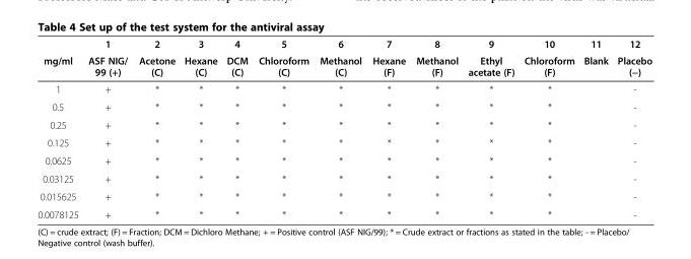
<table><thead><tr><td rowspan="2">mg/ml</td><td rowspan="2">1 ASF NIG/ 99 (+)</td><td rowspan="2">2 Acetone (C)</td><td rowspan="2">3 Hexane (C)</td><td rowspan="2">4 DCM (C)</td><td rowspan="2">5 Chloroform (C)</td><td rowspan="2">6 Methanol (C)</td><td rowspan="2">7 Hexane (F)</td><td rowspan="2">8 Methanol (F)</td><td rowspan="2">9 Ethyl acetate (F)</td><td rowspan="2">10 Chloroform (F)</td><td rowspan="2">11 Blank</td><td rowspan="2">12 Placebo (−)</td></tr><tr></tr></thead><tbody><tr><td>1</td><td>+</td><td>*</td><td>*</td><td>*</td><td>*</td><td>*</td><td>*</td><td>*</td><td>*</td><td>*</td><td></td><td>-</td></tr><tr><td>0.5</td><td>+</td><td>*</td><td>*</td><td>*</td><td>*</td><td>*</td><td>*</td><td>*</td><td>*</td><td>*</td><td></td><td>-</td></tr><tr><td>0.25</td><td>+</td><td>*</td><td>*</td><td>*</td><td>*</td><td>*</td><td>*</td><td>*</td><td>*</td><td>*</td><td></td><td>-</td></tr><tr><td>0.125</td><td>+</td><td>*</td><td>*</td><td>*</td><td>*</td><td>*</td><td>*</td><td>*</td><td>*</td><td>*</td><td></td><td>-</td></tr><tr><td>0.0625</td><td>+</td><td>*</td><td>*</td><td>*</td><td>*</td><td>*</td><td>*</td><td>*</td><td>*</td><td>*</td><td></td><td>-</td></tr><tr><td>0.03125</td><td>+</td><td>*</td><td>*</td><td>*</td><td>*</td><td>*</td><td>*</td><td>*</td><td>*</td><td>*</td><td></td><td>-</td></tr><tr><td>0.015625</td><td>+</td><td>*</td><td>*</td><td>*</td><td>*</td><td>*</td><td>*</td><td>*</td><td>*</td><td>*</td><td></td><td>-</td></tr><tr><td>0.0078125</td><td>+</td><td>*</td><td>*</td><td>*</td><td>*</td><td>*</td><td>*</td><td>*</td><td>*</td><td>*</td><td></td><td>-</td></tr></tbody></table>